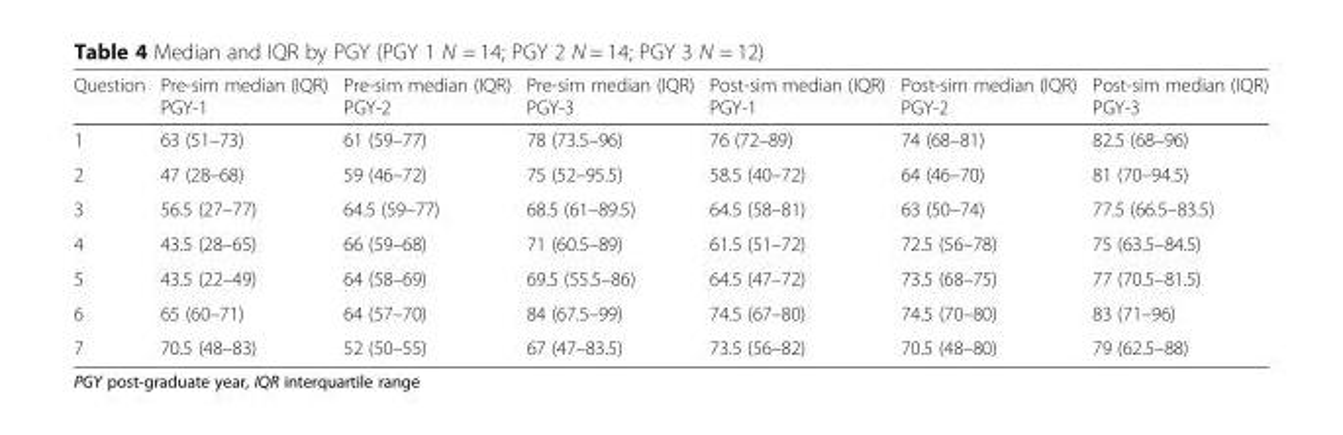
<table><thead><tr><td>Question</td><td>Pre-sim median (IQR) PGY-1</td><td>Pre-sim median (IQR) PGY-2</td><td>Pre-sim median (IQR) PGY-3</td><td>Post-sim median (IQR) PGY-1</td><td>Post-sim median (IQR) PGY-2</td><td>Post-sim median (IQR) PGY-3</td></tr></thead><tbody><tr><td>1</td><td>63 (51–73)</td><td>61 (59–77)</td><td>78 (73.5–96)</td><td>76 (72–89)</td><td>74 (68–81)</td><td>82.5 (68–96)</td></tr><tr><td>2</td><td>47 (28–68)</td><td>59 (46–72)</td><td>75 (52–95.5)</td><td>58.5 (40–72)</td><td>64 (46–70)</td><td>81 (70–94.5)</td></tr><tr><td>3</td><td>56.5 (27–77)</td><td>64.5 (59–77)</td><td>68.5 (61–89.5)</td><td>64.5 (58–81)</td><td>63 (50–74)</td><td>77.5 (66.5–83.5)</td></tr><tr><td>4</td><td>43.5 (28–65)</td><td>66 (59–68)</td><td>71 (60.5–89)</td><td>61.5 (51–72)</td><td>72.5 (56–78)</td><td>75 (63.5–84.5)</td></tr><tr><td>5</td><td>43.5 (22–49)</td><td>64 (58–69)</td><td>69.5 (55.5–86)</td><td>64.5 (47–72)</td><td>73.5 (68–75)</td><td>77 (70.5–81.5)</td></tr><tr><td>6</td><td>65 (60–71)</td><td>64 (57–70)</td><td>84 (67.5–99)</td><td>74.5 (67–80)</td><td>74.5 (70–80)</td><td>83 (71–96)</td></tr><tr><td>7</td><td>70.5 (48–83)</td><td>52 (50–55)</td><td>67 (47–83.5)</td><td>73.5 (56–82)</td><td>70.5 (48–80)</td><td>79 (62.5–88)</td></tr></tbody></table>